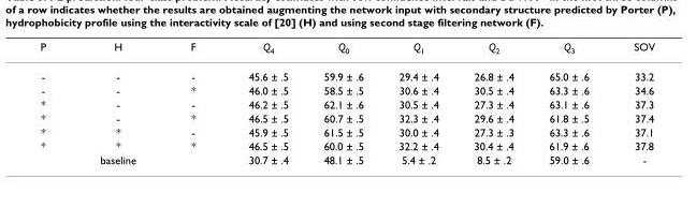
<table><thead><tr><td>P</td><td>H</td><td>F</td><td>Q4</td><td>Q0</td><td>Q1</td><td>Q2</td><td>Q3</td><td>SOV</td></tr></thead><tbody><tr><td>-</td><td>-</td><td>-</td><td>45.6 ± .5</td><td>59.9 ± .6</td><td>29.4 ± .4</td><td>26.8 ± .4</td><td>65.0 ± .6</td><td>33.2</td></tr><tr><td>-</td><td>-</td><td>*</td><td>46.0 ± .5</td><td>58.5 ± .5</td><td>30.6 ± .4</td><td>30.5 ± .4</td><td>63.3 ± .6</td><td>34.6</td></tr><tr><td>*</td><td>-</td><td>-</td><td>46.2 ± .5</td><td>62.1 ± .6</td><td>30.5 ± .4</td><td>27.3 ± .4</td><td>63.1 ± .6</td><td>37.3</td></tr><tr><td>*</td><td>-</td><td>*</td><td>46.5 ± .5</td><td>60.7 ± .5</td><td>32.3 ± .4</td><td>29.6 ± .4</td><td>61.8 ± .5</td><td>37.4</td></tr><tr><td>*</td><td>*</td><td>-</td><td>45.9 ± .5</td><td>61.5 ± .5</td><td>30.0 ± .4</td><td>27.3 ± .3</td><td>63.3 ± .6</td><td>37.1</td></tr><tr><td>*</td><td>*</td><td>*</td><td>46.5 ± .5</td><td>60.0 ± .5</td><td>32.2 ± .4</td><td>30.4 ± .4</td><td>61.9 ± .6</td><td>37.8</td></tr><tr><td colspan="3">baseline</td><td>30.7 ± .4</td><td>48.1 ± .5</td><td>5.4 ± .2</td><td>8.5 ± .2</td><td>59.0 ± .6</td><td>-</td></tr></tbody></table>